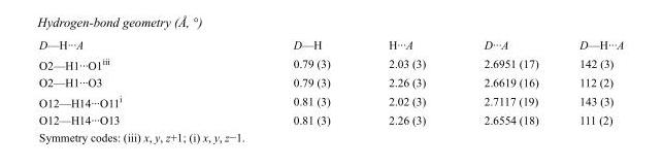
<table><tbody><tr><td>D—H···A</td><td>D—H</td><td>H···A</td><td>D···A</td><td>D—H···A</td></tr><tr><td>O2—H1···O1<sup>iii</sup></td><td>0.79 (3)</td><td>2.03 (3)</td><td>2.6951 (17)</td><td>142 (3)</td></tr><tr><td>O2—H1···O3</td><td>0.79 (3)</td><td>2.26 (3)</td><td>2.6619 (16)</td><td>112 (2)</td></tr><tr><td>O12—H14···O11<sup>i</sup></td><td>0.81 (3)</td><td>2.02 (3)</td><td>2.7117 (19)</td><td>143 (3)</td></tr><tr><td>O12—H14···O13</td><td>0.81 (3)</td><td>2.26 (3)</td><td>2.6554 (18)</td><td>111 (2)</td></tr></tbody></table>